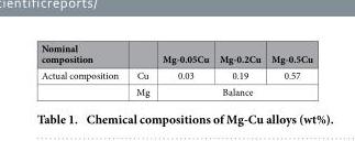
<table><thead><tr><td>Nominal composition</td><td></td><td>Mg-0.05Cu</td><td>Mg-0.2Cu</td><td>Mg-0.5Cu</td></tr></thead><tbody><tr><td rowspan="2">Actual composition</td><td>Cu</td><td>0.03</td><td>0.19</td><td>0.57</td></tr><tr><td>Mg</td><td colspan="3">Balance</td></tr></tbody></table>